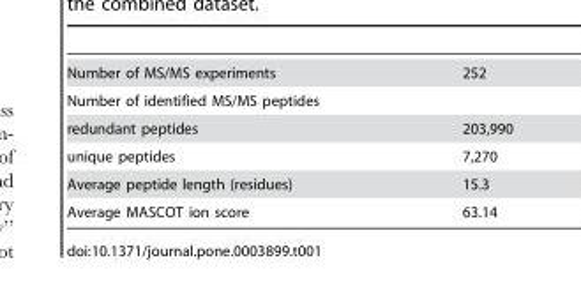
<table><tbody><tr><td>Number of MS/MS experiments</td><td>252</td></tr><tr><td colspan="2">Number of identified MS/MS peptides</td></tr><tr><td>redundant peptides</td><td>203,990</td></tr><tr><td>unique peptides</td><td>7,270</td></tr><tr><td>Average peptide length (residues)</td><td>15.3</td></tr><tr><td>Average MASCOT ion score</td><td>63.14</td></tr></tbody></table>